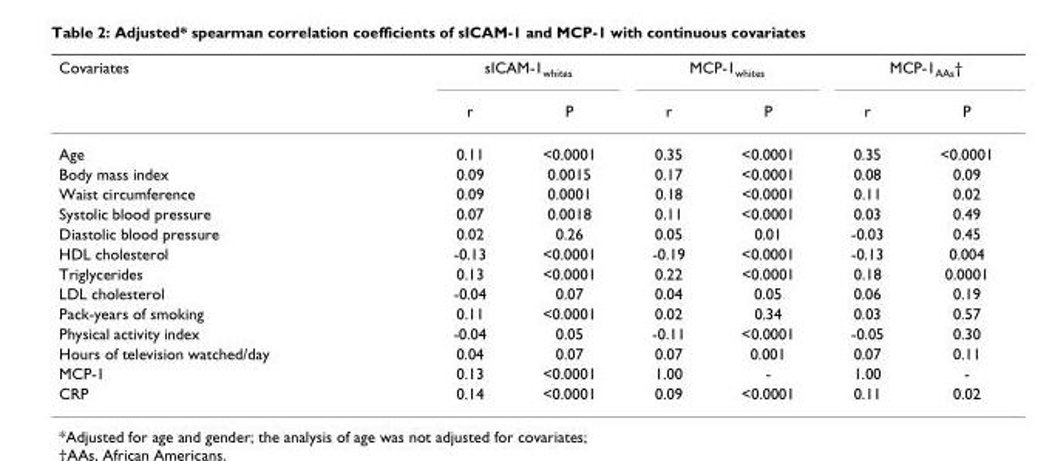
<table><thead><tr><td rowspan="2">Covariates</td><td colspan="2">sICAM-1<sub>whites</sub></td><td colspan="2">MCP-1<sub>whites</sub></td><td colspan="2">MCP-1<sub>AAs</sub>†</td></tr><tr><td>r</td><td>P</td><td>r</td><td>P</td><td>r</td><td>P</td></tr></thead><tbody><tr><td>Age</td><td>0.11</td><td>&lt;0.0001</td><td>0.35</td><td>&lt;0.0001</td><td>0.35</td><td>&lt;0.0001</td></tr><tr><td>Body mass index</td><td>0.09</td><td>0.0015</td><td>0.17</td><td>&lt;0.0001</td><td>0.08</td><td>0.09</td></tr><tr><td>Waist circumference</td><td>0.09</td><td>0.0001</td><td>0.18</td><td>&lt;0.0001</td><td>0.11</td><td>0.02</td></tr><tr><td>Systolic blood pressure</td><td>0.07</td><td>0.0018</td><td>0.11</td><td>&lt;0.0001</td><td>0.03</td><td>0.49</td></tr><tr><td>Diastolic blood pressure</td><td>0.02</td><td>0.26</td><td>0.05</td><td>0.01</td><td>-0.03</td><td>0.45</td></tr><tr><td>HDL cholesterol</td><td>-0.13</td><td>&lt;0.0001</td><td>-0.19</td><td>&lt;0.0001</td><td>-0.13</td><td>0.004</td></tr><tr><td>Triglycerides</td><td>0.13</td><td>&lt;0.0001</td><td>0.22</td><td>&lt;0.0001</td><td>0.18</td><td>0.0001</td></tr><tr><td>LDL cholesterol</td><td>-0.04</td><td>0.07</td><td>0.04</td><td>0.05</td><td>0.06</td><td>0.19</td></tr><tr><td>Pack-years of smoking</td><td>0.11</td><td>&lt;0.0001</td><td>0.02</td><td>0.34</td><td>0.03</td><td>0.57</td></tr><tr><td>Physical activity index</td><td>-0.04</td><td>0.05</td><td>-0.11</td><td>&lt;0.0001</td><td>-0.05</td><td>0.30</td></tr><tr><td>Hours of television watched/day</td><td>0.04</td><td>0.07</td><td>0.07</td><td>0.001</td><td>0.07</td><td>0.11</td></tr><tr><td>MCP-1</td><td>0.13</td><td>&lt;0.0001</td><td>1.00</td><td>-</td><td>1.00</td><td>-</td></tr><tr><td>CRP</td><td>0.14</td><td>&lt;0.0001</td><td>0.09</td><td>&lt;0.0001</td><td>0.11</td><td>0.02</td></tr></tbody></table>